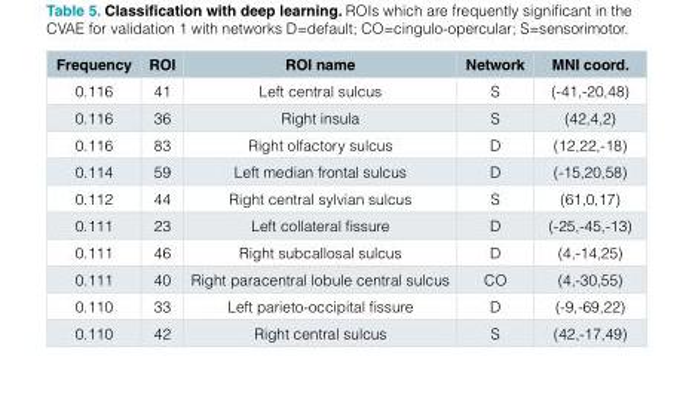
<table><thead><tr><td>Frequency</td><td>ROI</td><td>ROI name</td><td>Network</td><td>MNI coord.</td></tr></thead><tbody><tr><td>0.116</td><td>41</td><td>Left central sulcus</td><td>S</td><td>(-41,-20,48)</td></tr><tr><td>0.116</td><td>36</td><td>Right insula</td><td>S</td><td>(42,4,2)</td></tr><tr><td>0.116</td><td>83</td><td>Right olfactory sulcus</td><td>D</td><td>(12,22,-18)</td></tr><tr><td>0.114</td><td>59</td><td>Left median frontal sulcus</td><td>D</td><td>(-15,20,58)</td></tr><tr><td>0.112</td><td>44</td><td>Right central sylvian sulcus</td><td>S</td><td>(61,0,17)</td></tr><tr><td>0.111</td><td>23</td><td>Left collateral fissure</td><td>D</td><td>(-25,-45,-13)</td></tr><tr><td>0.111</td><td>46</td><td>Right subcallosal sulcus</td><td>D</td><td>(4,-14,25)</td></tr><tr><td>0.111</td><td>40</td><td>Right paracentral lobule central sulcus</td><td>CO</td><td>(4,-30,55)</td></tr><tr><td>0.110</td><td>33</td><td>Left parieto-occipital fissure</td><td>D</td><td>(-9,-69,22)</td></tr><tr><td>0.110</td><td>42</td><td>Right central sulcus</td><td>S</td><td>(42,-17,49)</td></tr></tbody></table>